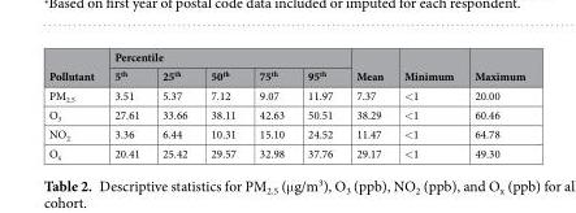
<table><thead><tr><td rowspan="2">Pollutant</td><td colspan="5">Percentile</td><td rowspan="2">Mean</td><td rowspan="2">Minimum</td><td rowspan="2">Maximum</td></tr><tr><td>5<sup>th</sup></td><td>25<sup>th</sup></td><td>50<sup>th</sup></td><td>75<sup>th</sup></td><td>95<sup>th</sup></td></tr></thead><tbody><tr><td>PM<sub>2.5</sub></td><td>3.51</td><td>5.37</td><td>7.12</td><td>9.07</td><td>11.97</td><td>7.37</td><td>&lt;1</td><td>20.00</td></tr><tr><td>O<sub>3</sub></td><td>27.61</td><td>33.66</td><td>38.11</td><td>42.63</td><td>50.51</td><td>38.29</td><td>&lt;1</td><td>60.46</td></tr><tr><td>NO<sub>2</sub></td><td>3.36</td><td>6.44</td><td>10.31</td><td>15.10</td><td>24.52</td><td>11.47</td><td>&lt;1</td><td>64.78</td></tr><tr><td>O<sub>x</sub></td><td>20.41</td><td>25.42</td><td>29.57</td><td>32.98</td><td>37.76</td><td>29.17</td><td>&lt;1</td><td>49.30</td></tr></tbody></table>